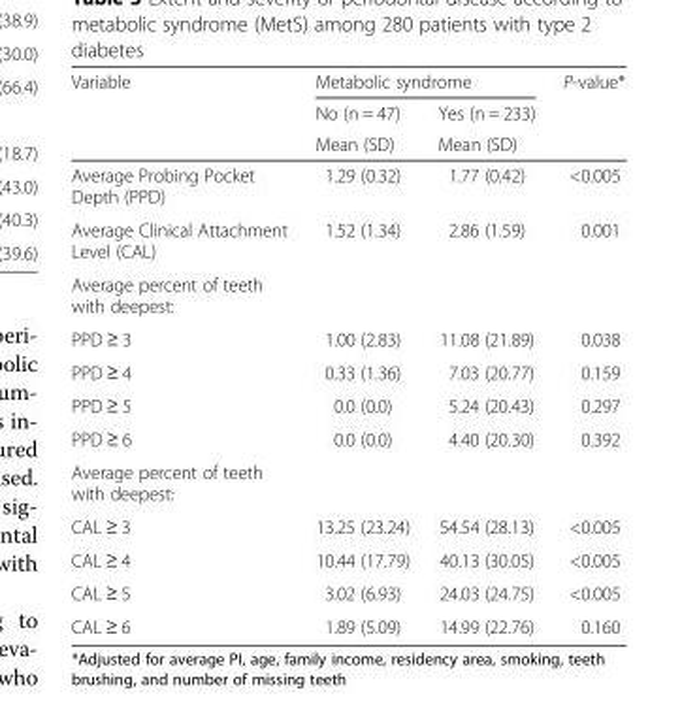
<table><thead><tr><td rowspan="3">Variable</td><td colspan="2">Metabolic syndrome</td><td rowspan="3">P-value*</td></tr><tr><td rowspan="2">No (n = 47) Mean (SD)</td><td rowspan="2">Yes (n = 233) Mean (SD)</td></tr><tr></tr></thead><tbody><tr><td>Average Probing Pocket Depth (PPD)</td><td>1.29 (0.32)</td><td>1.77 (0.42)</td><td>&lt;0.005</td></tr><tr><td>Average Clinical Attachment Level (CAL)</td><td>1.52 (1.34)</td><td>2.86 (1.59)</td><td>0.001</td></tr><tr><td colspan="4">Average percent of teeth with deepest:</td></tr><tr><td>PPD ≥ 3</td><td>1.00 (2.83)</td><td>11.08 (21.89)</td><td>0.038</td></tr><tr><td>PPD ≥ 4</td><td>0.33 (1.36)</td><td>7.03 (20.77)</td><td>0.159</td></tr><tr><td>PPD ≥ 5</td><td>0.0 (0.0)</td><td>5.24 (20.43)</td><td>0.297</td></tr><tr><td>PPD ≥ 6</td><td>0.0 (0.0)</td><td>4.40 (20.30)</td><td>0.392</td></tr><tr><td colspan="4">Average percent of teeth with deepest:</td></tr><tr><td>CAL ≥ 3</td><td>13.25 (23.24)</td><td>54.54 (28.13)</td><td>&lt;0.005</td></tr><tr><td>CAL ≥ 4</td><td>10.44 (17.79)</td><td>40.13 (30.05)</td><td>&lt;0.005</td></tr><tr><td>CAL ≥ 5</td><td>3.02 (6.93)</td><td>24.03 (24.75)</td><td>&lt;0.005</td></tr><tr><td>CAL ≥ 6</td><td>1.89 (5.09)</td><td>14.99 (22.76)</td><td>0.160</td></tr></tbody></table>